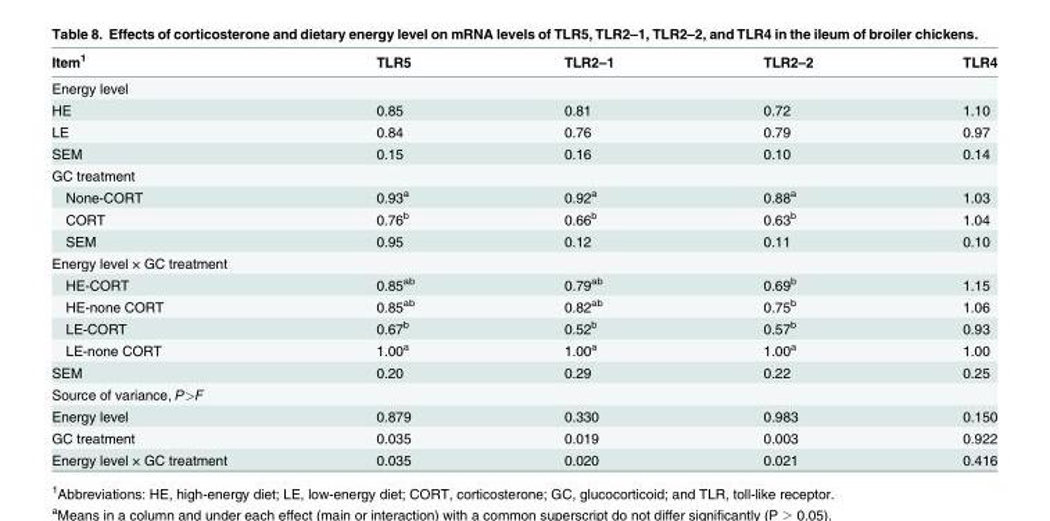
<table><thead><tr><td>Item<sup>1</sup></td><td>TLR5</td><td>TLR2–1</td><td>TLR2–2</td><td>TLR4</td></tr></thead><tbody><tr><td colspan="5">Energy level</td></tr><tr><td>HE</td><td>0.85</td><td>0.81</td><td>0.72</td><td>1.10</td></tr><tr><td>LE</td><td>0.84</td><td>0.76</td><td>0.79</td><td>0.97</td></tr><tr><td>SEM</td><td>0.15</td><td>0.16</td><td>0.10</td><td>0.14</td></tr><tr><td colspan="5">GC treatment</td></tr><tr><td>None-CORT</td><td>0.93<sup>a</sup></td><td>0.92<sup>a</sup></td><td>0.88<sup>a</sup></td><td>1.03</td></tr><tr><td>CORT</td><td>0.76<sup>b</sup></td><td>0.66<sup>b</sup></td><td>0.63<sup>b</sup></td><td>1.04</td></tr><tr><td>SEM</td><td>0.95</td><td>0.12</td><td>0.11</td><td>0.10</td></tr><tr><td colspan="5">Energy level × GC treatment</td></tr><tr><td>HE-CORT</td><td>0.85<sup>ab</sup></td><td>0.79<sup>ab</sup></td><td>0.69<sup>b</sup></td><td>1.15</td></tr><tr><td>HE-none CORT</td><td>0.85<sup>ab</sup></td><td>0.82<sup>ab</sup></td><td>0.75<sup>b</sup></td><td>1.06</td></tr><tr><td>LE-CORT</td><td>0.67<sup>b</sup></td><td>0.52<sup>b</sup></td><td>0.57<sup>b</sup></td><td>0.93</td></tr><tr><td>LE-none CORT</td><td>1.00<sup>a</sup></td><td>1.00<sup>a</sup></td><td>1.00<sup>a</sup></td><td>1.00</td></tr><tr><td>SEM</td><td>0.20</td><td>0.29</td><td>0.22</td><td>0.25</td></tr><tr><td colspan="5">Source of variance, P&gt;F</td></tr><tr><td>Energy level</td><td>0.879</td><td>0.330</td><td>0.983</td><td>0.150</td></tr><tr><td>GC treatment</td><td>0.035</td><td>0.019</td><td>0.003</td><td>0.922</td></tr><tr><td>Energy level × GC treatment</td><td>0.035</td><td>0.020</td><td>0.021</td><td>0.416</td></tr></tbody></table>